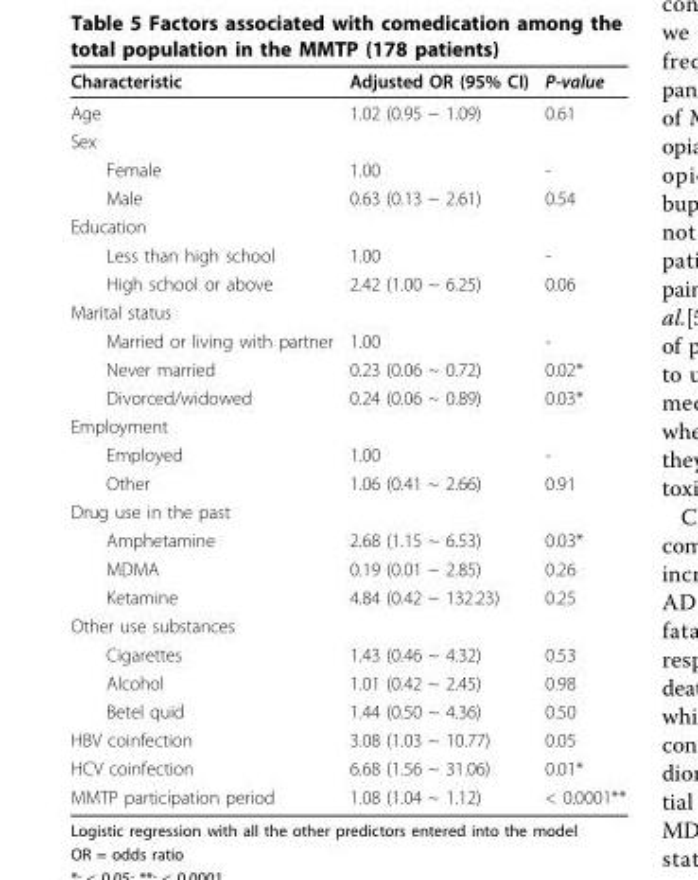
<table><thead><tr><td>Characteristic</td><td>Adjusted OR (95% CI)</td><td>P-value</td></tr></thead><tbody><tr><td>Age</td><td>1.02 (0.95 ~ 1.09)</td><td>0.61</td></tr><tr><td colspan="3">Sex</td></tr><tr><td>Female</td><td>1.00</td><td>-</td></tr><tr><td>Male</td><td>0.63 (0.13 ~ 2.61)</td><td>0.54</td></tr><tr><td colspan="3">Education</td></tr><tr><td>Less than high school</td><td>1.00</td><td>-</td></tr><tr><td>High school or above</td><td>2.42 (1.00 ~ 6.25)</td><td>0.06</td></tr><tr><td colspan="3">Marital status</td></tr><tr><td>Married or living with partner</td><td>1.00</td><td>-</td></tr><tr><td>Never married</td><td>0.23 (0.06 ~ 0.72)</td><td>0.02*</td></tr><tr><td>Divorced/widowed</td><td>0.24 (0.06 ~ 0.89)</td><td>0.03*</td></tr><tr><td colspan="3">Employment</td></tr><tr><td>Employed</td><td>1.00</td><td>-</td></tr><tr><td>Other</td><td>1.06 (0.41 ~ 2.66)</td><td>0.91</td></tr><tr><td colspan="3">Drug use in the past</td></tr><tr><td>Amphetamine</td><td>2.68 (1.15 ~ 6.53)</td><td>0.03*</td></tr><tr><td>MDMA</td><td>0.19 (0.01 ~ 2.85)</td><td>0.26</td></tr><tr><td>Ketamine</td><td>4.84 (0.42 ~ 132.23)</td><td>0.25</td></tr><tr><td colspan="3">Other use substances</td></tr><tr><td>Cigarettes</td><td>1.43 (0.46 ~ 4.32)</td><td>0.53</td></tr><tr><td>Alcohol</td><td>1.01 (0.42 ~ 2.45)</td><td>0.98</td></tr><tr><td>Betel quid</td><td>1.44 (0.50 ~ 4.36)</td><td>0.50</td></tr><tr><td>HBV coinfection</td><td>3.08 (1.03 ~ 10.77)</td><td>0.05</td></tr><tr><td>HCV coinfection</td><td>6.68 (1.56 ~ 31.06)</td><td>0.01*</td></tr><tr><td>MMTP participation period</td><td>1.08 (1.04 ~ 1.12)</td><td>&lt; 0.0001**</td></tr></tbody></table>